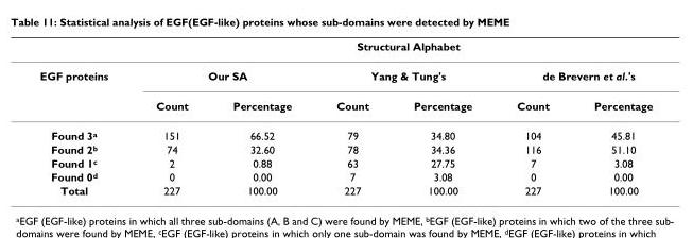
<table><thead><tr><td rowspan="3">EGF proteins</td><td colspan="6">Structural Alphabet</td></tr><tr><td colspan="2">Our SA</td><td colspan="2">Yang &amp; Tung&#x27;s</td><td colspan="2">de Brevern et al.&#x27;s</td></tr><tr><td>Count</td><td>Percentage</td><td>Count</td><td>Percentage</td><td>Count</td><td>Percentage</td></tr></thead><tbody><tr><td>Found 3<sup>a</sup></td><td>151</td><td>66.52</td><td>79</td><td>34.80</td><td>104</td><td>45.81</td></tr><tr><td>Found 2<sup>b</sup></td><td>74</td><td>32.60</td><td>78</td><td>34.36</td><td>116</td><td>51.10</td></tr><tr><td>Found 1<sup>c</sup></td><td>2</td><td>0.88</td><td>63</td><td>27.75</td><td>7</td><td>3.08</td></tr><tr><td>Found 0<sup>d</sup></td><td>0</td><td>0.00</td><td>7</td><td>3.08</td><td>0</td><td>0.00</td></tr><tr><td>Total</td><td>227</td><td>100.00</td><td>227</td><td>100.00</td><td>227</td><td>100.00</td></tr></tbody></table>